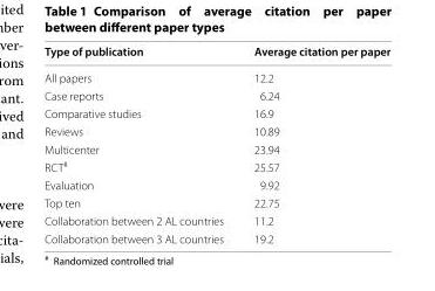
<table><thead><tr><td>Type of publication</td><td>Average citation per paper</td></tr></thead><tbody><tr><td>All papers</td><td>12.2</td></tr><tr><td>Case reports</td><td>6.24</td></tr><tr><td>Comparative studies</td><td>16.9</td></tr><tr><td>Reviews</td><td>10.89</td></tr><tr><td>Multicenter</td><td>23.94</td></tr><tr><td>RCT<sup>#</sup></td><td>25.57</td></tr><tr><td>Evaluation</td><td>9.92</td></tr><tr><td>Top ten</td><td>22.75</td></tr><tr><td>Collaboration between 2 AL countries</td><td>11.2</td></tr><tr><td>Collaboration between 3 AL countries</td><td>19.2</td></tr></tbody></table>